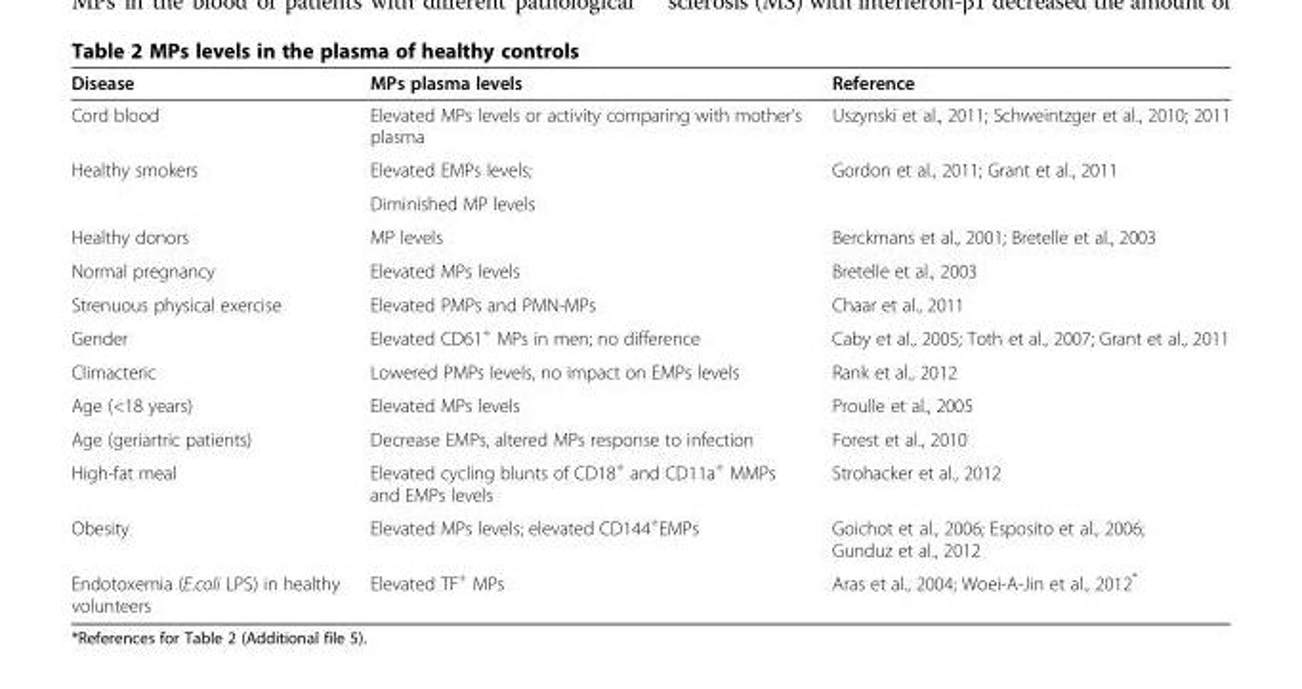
<table><thead><tr><td>Disease</td><td>MPs plasma levels</td><td>Reference</td></tr></thead><tbody><tr><td>Cord blood</td><td>Elevated MPs levels or activity comparing with mother’s plasma</td><td>Uszynski et al., 2011; Schweintzger et al., 2010; 2011</td></tr><tr><td rowspan="2">Healthy smokers</td><td>Elevated EMPs levels;</td><td rowspan="2">Gordon et al., 2011; Grant et al., 2011</td></tr><tr><td>Diminished MP levels</td></tr><tr><td>Healthy donors</td><td>MP levels</td><td>Berckmans et al., 2001; Bretelle et al., 2003</td></tr><tr><td>Normal pregnancy</td><td>Elevated MPs levels</td><td>Bretelle et al., 2003</td></tr><tr><td>Strenuous physical exercise</td><td>Elevated PMPs and PMN-MPs</td><td>Chaar et al., 2011</td></tr><tr><td>Gender</td><td>Elevated CD61<sup>+</sup> MPs in men; no difference</td><td>Caby et al., 2005; Toth et al., 2007; Grant et al., 2011</td></tr><tr><td>Climacteric</td><td>Lowered PMPs levels, no impact on EMPs levels</td><td>Rank et al., 2012</td></tr><tr><td>Age (&lt;18 years)</td><td>Elevated MPs levels</td><td>Proulle et al., 2005</td></tr><tr><td>Age (geriartric patients)</td><td>Decrease EMPs, altered MPs response to infection</td><td>Forest et al., 2010</td></tr><tr><td>High-fat meal</td><td>Elevated cycling blunts of CD18<sup>+</sup> and CD11a<sup>+</sup> MMPs and EMPs levels</td><td>Strohacker et al., 2012</td></tr><tr><td>Obesity</td><td>Elevated MPs levels; elevated CD144<sup>+</sup>EMPs</td><td>Goichot et al., 2006; Esposito et al., 2006; Gunduz et al., 2012</td></tr><tr><td>Endotoxemia (E.coli LPS) in healthy volunteers</td><td>Elevated TF<sup>+</sup> MPs</td><td>Aras et al., 2004; Woei-A-Jin et al., 2012*</td></tr></tbody></table>